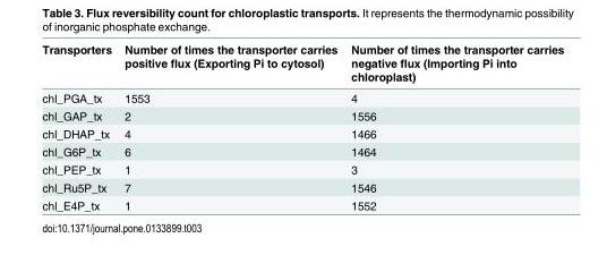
<table><thead><tr><td>Transporters</td><td>Number of times the transporter carries positive flux (Exporting Pi to cytosol)</td><td>Number of times the transporter carries negative flux (Importing Pi into chloroplast)</td></tr></thead><tbody><tr><td>chl_PGA_tx</td><td>1553</td><td>4</td></tr><tr><td>chl_GAP_tx</td><td>2</td><td>1556</td></tr><tr><td>chl_DHAP_tx</td><td>4</td><td>1466</td></tr><tr><td>chl_G6P_tx</td><td>6</td><td>1464</td></tr><tr><td>chl_PEP_tx</td><td>1</td><td>3</td></tr><tr><td>chl_Ru5P_tx</td><td>7</td><td>1546</td></tr><tr><td>chl_E4P_tx</td><td>1</td><td>1552</td></tr></tbody></table>